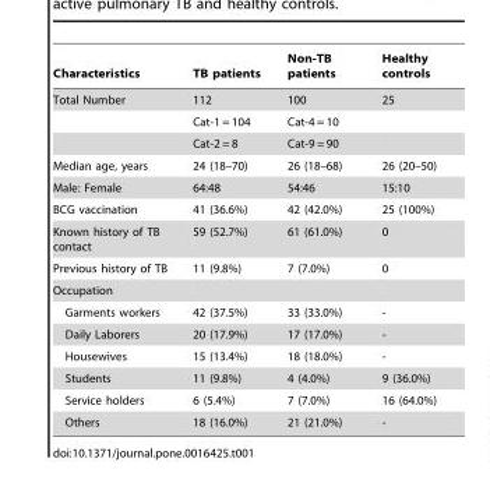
<table><thead><tr><td>Characteristics</td><td>TB patients</td><td>Non-TB patients</td><td>Healthy controls</td></tr></thead><tbody><tr><td rowspan="3">Total Number</td><td>112</td><td>100</td><td>25</td></tr><tr><td>Cat-1 = 104</td><td>Cat-4 = 10</td><td></td></tr><tr><td>Cat-2 = 8</td><td>Cat-9 = 90</td><td></td></tr><tr><td>Median age, years</td><td>24 (18–70)</td><td>26 (18–68)</td><td>26 (20–50)</td></tr><tr><td>Male: Female</td><td>64:48</td><td>54:46</td><td>15:10</td></tr><tr><td>BCG vaccination</td><td>41 (36.6%)</td><td>42 (42.0%)</td><td>25 (100%)</td></tr><tr><td>Known history of TB contact</td><td>59 (52.7%)</td><td>61 (61.0%)</td><td>0</td></tr><tr><td>Previous history of TB</td><td>11 (9.8%)</td><td>7 (7.0%)</td><td>0</td></tr><tr><td colspan="4">Occupation</td></tr><tr><td>Garments workers</td><td>42 (37.5%)</td><td>33 (33.0%)</td><td>-</td></tr><tr><td>Daily Laborers</td><td>20 (17.9%)</td><td>17 (17.0%)</td><td>-</td></tr><tr><td>Housewives</td><td>15 (13.4%)</td><td>18 (18.0%)</td><td>-</td></tr><tr><td>Students</td><td>11 (9.8%)</td><td>4 (4.0%)</td><td>9 (36.0%)</td></tr><tr><td>Service holders</td><td>6 (5.4%)</td><td>7 (7.0%)</td><td>16 (64.0%)</td></tr><tr><td>Others</td><td>18 (16.0%)</td><td>21 (21.0%)</td><td>-</td></tr></tbody></table>